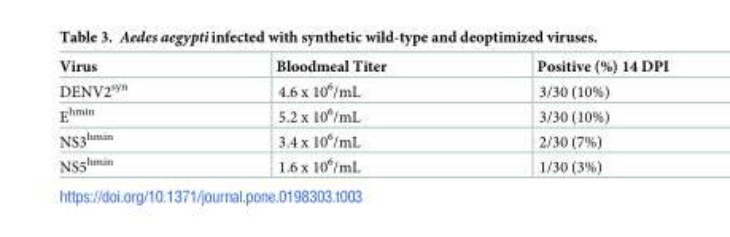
<table><thead><tr><td>Virus</td><td>Bloodmeal Titer</td><td>Positive (%) 14 DPI</td></tr></thead><tbody><tr><td>DENV2<sup>syn</sup></td><td>4.6 x 10<sup>6</sup>/mL</td><td>3/30 (10%)</td></tr><tr><td>E<sup>hmin</sup></td><td>5.2 x 10<sup>6</sup>/mL</td><td>3/30 (10%)</td></tr><tr><td>NS3<sup>hmin</sup></td><td>3.4 x 10<sup>6</sup>/mL</td><td>2/30 (7%)</td></tr><tr><td>NS5<sup>hmin</sup></td><td>1.6 x 10<sup>6</sup>/mL</td><td>1/30 (3%)</td></tr></tbody></table>